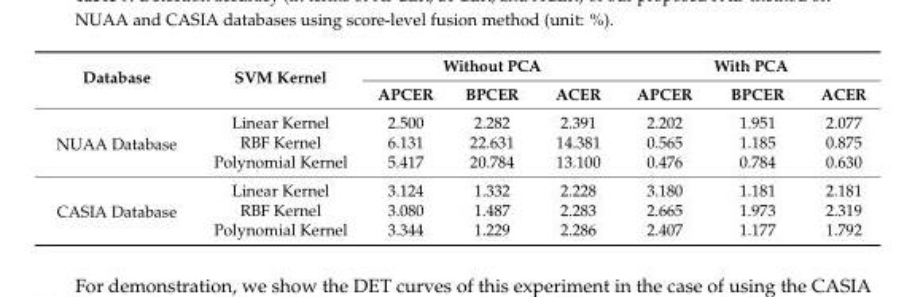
<table><thead><tr><td rowspan="2">Database</td><td rowspan="2">SVM Kernel</td><td colspan="3">Without PCA</td><td colspan="3">With PCA</td></tr><tr><td>APCER</td><td>BPCER</td><td>ACER</td><td>APCER</td><td>BPCER</td><td>ACER</td></tr></thead><tbody><tr><td rowspan="3">NUAA Database</td><td>Linear Kernel</td><td>2.500</td><td>2.282</td><td>2.391</td><td>2.202</td><td>1.951</td><td>2.077</td></tr><tr><td>RBF Kernel</td><td>6.131</td><td>22.631</td><td>14.381</td><td>0.565</td><td>1.185</td><td>0.875</td></tr><tr><td>Polynomial Kernel</td><td>5.417</td><td>20.784</td><td>13.100</td><td>0.476</td><td>0.784</td><td>0.630</td></tr><tr><td rowspan="3">CASIA Database</td><td>Linear Kernel</td><td>3.124</td><td>1.332</td><td>2.228</td><td>3.180</td><td>1.181</td><td>2.181</td></tr><tr><td>RBF Kernel</td><td>3.080</td><td>1.487</td><td>2.283</td><td>2.665</td><td>1.973</td><td>2.319</td></tr><tr><td>Polynomial Kernel</td><td>3.344</td><td>1.229</td><td>2.286</td><td>2.407</td><td>1.177</td><td>1.792</td></tr></tbody></table>